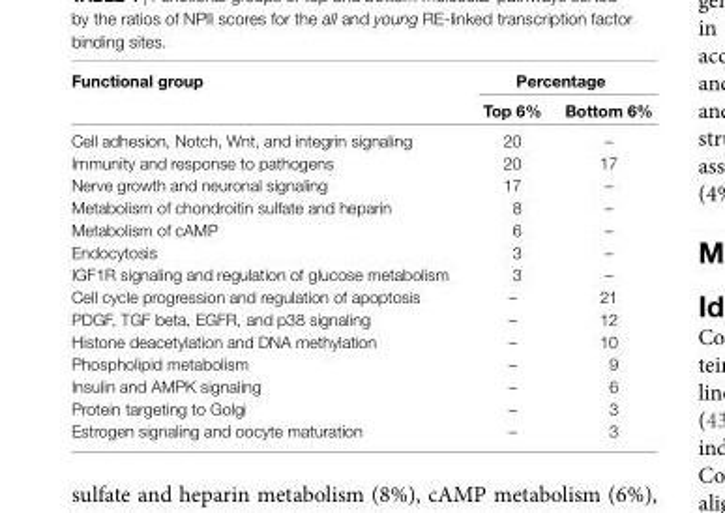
<table><thead><tr><td rowspan="2">Functional group</td><td colspan="2">Percentage</td></tr><tr><td>Top 6%</td><td>Bottom 6%</td></tr></thead><tbody><tr><td>Cell adhesion, Notch, Wnt, and integrin signaling</td><td>20</td><td>–</td></tr><tr><td>Immunity and response to pathogens</td><td>20</td><td>17</td></tr><tr><td>Nerve growth and neuronal signaling</td><td>17</td><td>–</td></tr><tr><td>Metabolism of chondroitin sulfate and heparin</td><td>8</td><td>–</td></tr><tr><td>Metabolism of cAMP</td><td>6</td><td>–</td></tr><tr><td>Endocytosis</td><td>3</td><td>–</td></tr><tr><td>IGF1R signaling and regulation of glucose metabolism</td><td>3</td><td>–</td></tr><tr><td>Cell cycle progression and regulation of apoptosis</td><td>–</td><td>21</td></tr><tr><td>PDGF, TGF beta, EGFR, and p38 signaling</td><td>–</td><td>12</td></tr><tr><td>Histone deacetylation and DNA methylation</td><td>–</td><td>10</td></tr><tr><td>Phospholipid metabolism</td><td>–</td><td>9</td></tr><tr><td>Insulin and AMPK signaling</td><td>–</td><td>6</td></tr><tr><td>Protein targeting to Golgi</td><td>–</td><td>3</td></tr><tr><td>Estrogen signaling and oocyte maturation</td><td>–</td><td>3</td></tr></tbody></table>